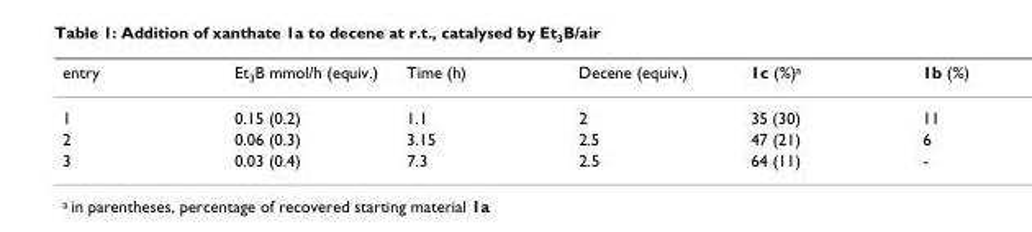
<table><thead><tr><td>entry</td><td>Et3B mmol/h (equiv.)</td><td>Time (h)</td><td>Decene (equiv.)</td><td>1c (%)a</td><td>1b (%)</td></tr></thead><tbody><tr><td>1</td><td>0.15 (0.2)</td><td>1.1</td><td>2</td><td>35 (30)</td><td>11</td></tr><tr><td>2</td><td>0.06 (0.3)</td><td>3.15</td><td>2.5</td><td>47 (21)</td><td>6</td></tr><tr><td>3</td><td>0.03 (0.4)</td><td>7.3</td><td>2.5</td><td>64 (11)</td><td>-</td></tr></tbody></table>